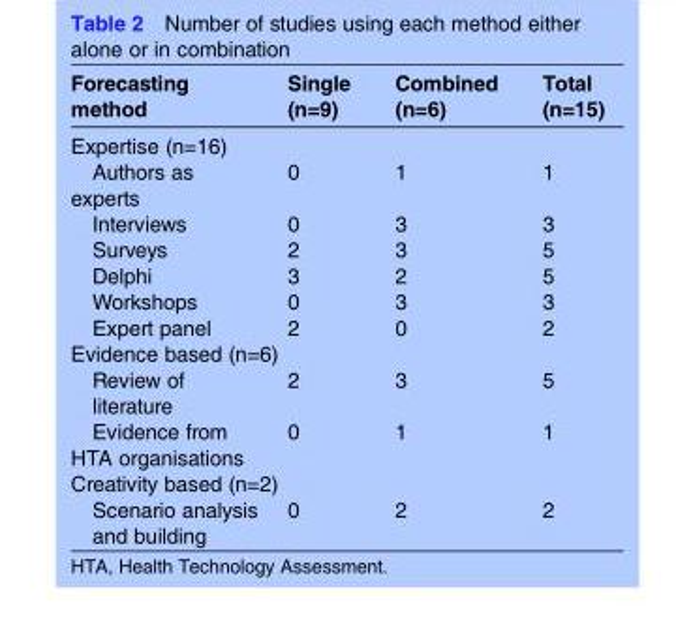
<table><thead><tr><td>Forecasting method</td><td>Single (n=9)</td><td>Combined (n=6)</td><td>Total (n=15)</td></tr></thead><tbody><tr><td colspan="4">Expertise (n=16)</td></tr><tr><td>Authors as experts</td><td>0</td><td>1</td><td>1</td></tr><tr><td>Interviews</td><td>0</td><td>3</td><td>3</td></tr><tr><td>Surveys</td><td>2</td><td>3</td><td>5</td></tr><tr><td>Delphi</td><td>3</td><td>2</td><td>5</td></tr><tr><td>Workshops</td><td>0</td><td>3</td><td>3</td></tr><tr><td>Expert panel</td><td>2</td><td>0</td><td>2</td></tr><tr><td colspan="4">Evidence based (n=6)</td></tr><tr><td>Review of literature</td><td>2</td><td>3</td><td>5</td></tr><tr><td>Evidence from HTA organisations</td><td>0</td><td>1</td><td>1</td></tr><tr><td colspan="4">Creativity based (n=2)</td></tr><tr><td>Scenario analysis and building</td><td>0</td><td>2</td><td>2</td></tr></tbody></table>